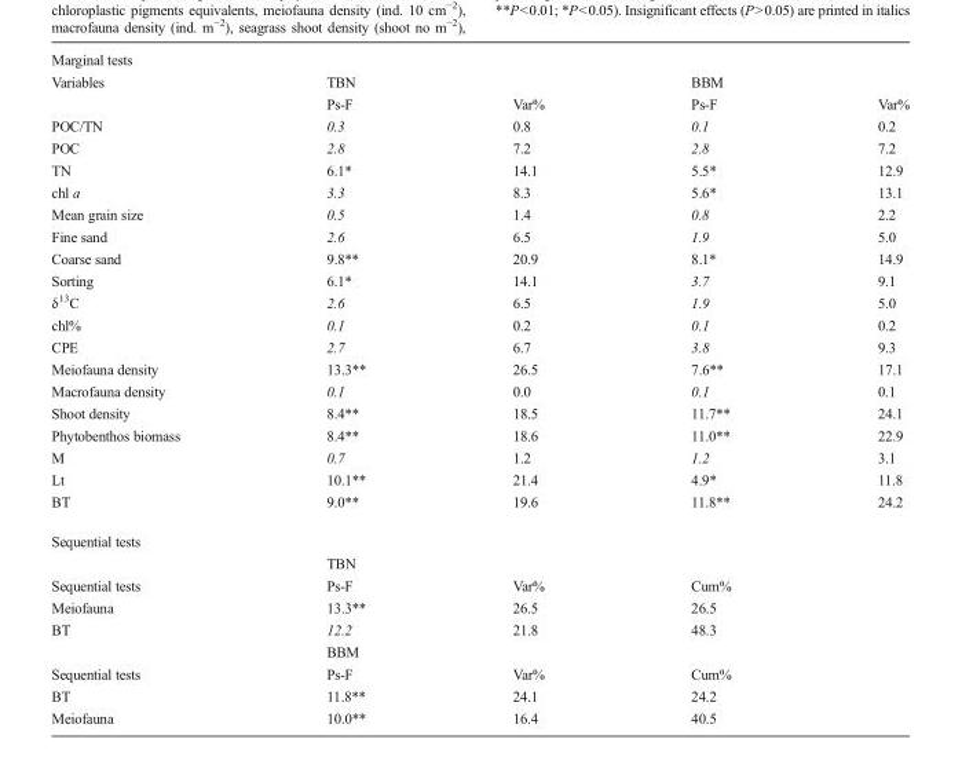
<table><tbody><tr><td colspan="5">Marginal tests</td></tr><tr><td rowspan="2">Variables</td><td colspan="2">TBN</td><td colspan="2">BBM</td></tr><tr><td>Ps-F</td><td>Var%</td><td>Ps-F</td><td>Var%</td></tr><tr><td>POC/TN</td><td>0.3</td><td>0.8</td><td>0.1</td><td>0.2</td></tr><tr><td>POC</td><td>2.8</td><td>7.2</td><td>2.8</td><td>7.2</td></tr><tr><td>TN</td><td>6.1*</td><td>14.1</td><td>5.5*</td><td>12.9</td></tr><tr><td>chl a</td><td>3.3</td><td>8.3</td><td>5.6*</td><td>13.1</td></tr><tr><td>Mean grain size</td><td>0.5</td><td>1.4</td><td>0.8</td><td>2.2</td></tr><tr><td>Fine sand</td><td>2.6</td><td>6.5</td><td>1.9</td><td>5.0</td></tr><tr><td>Coarse sand</td><td>9.8**</td><td>20.9</td><td>8.1*</td><td>14.9</td></tr><tr><td>Sorting</td><td>6.1*</td><td>14.1</td><td>3.7</td><td>9.1</td></tr><tr><td>δ<sup>13</sup>C</td><td>2.6</td><td>6.5</td><td>1.9</td><td>5.0</td></tr><tr><td>chl%</td><td>0.1</td><td>0.2</td><td>0.1</td><td>0.2</td></tr><tr><td>CPE</td><td>2.7</td><td>6.7</td><td>3.8</td><td>9.3</td></tr><tr><td>Meiofauna density</td><td>13.3**</td><td>26.5</td><td>7.6**</td><td>17.1</td></tr><tr><td>Macrofauna density</td><td>0.1</td><td>0.0</td><td>0.1</td><td>0.1</td></tr><tr><td>Shoot density</td><td>8.4**</td><td>18.5</td><td>11.7**</td><td>24.1</td></tr><tr><td>Phytobenthos biomass</td><td>8.4**</td><td>18.6</td><td>11.0**</td><td>22.9</td></tr><tr><td>M</td><td>0.7</td><td>1.2</td><td>1.2</td><td>3.1</td></tr><tr><td>Lt</td><td>10.1**</td><td>21.4</td><td>4.9*</td><td>11.8</td></tr><tr><td>BT</td><td>9.0**</td><td>19.6</td><td>11.8**</td><td>24.2</td></tr><tr><td colspan="5">Sequential tests</td></tr><tr><td></td><td colspan="4">TBN</td></tr><tr><td>Sequential tests</td><td>Ps-F</td><td>Var%</td><td>Cum%</td><td></td></tr><tr><td>Meiofauna</td><td>13.3**</td><td>26.5</td><td>26.5</td><td></td></tr><tr><td rowspan="2">BT</td><td>12.2</td><td>21.8</td><td>48.3</td><td></td></tr><tr><td colspan="4">BBM</td></tr><tr><td>Sequential tests</td><td>Ps-F</td><td>Var%</td><td>Cum%</td><td></td></tr><tr><td>BT</td><td>11.8**</td><td>24.1</td><td>24.2</td><td></td></tr><tr><td>Meiofauna</td><td>10.0**</td><td>16.4</td><td>40.5</td><td></td></tr></tbody></table>